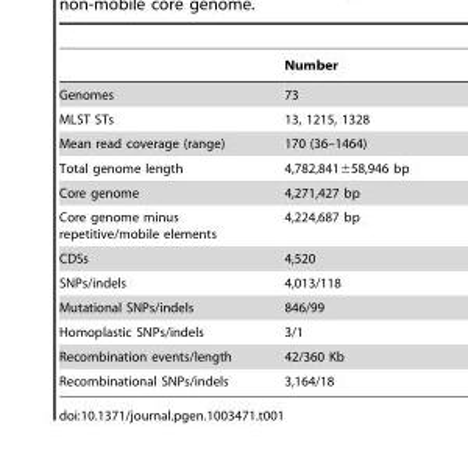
<table><thead><tr><td></td><td>Number</td></tr></thead><tbody><tr><td>Genomes</td><td>73</td></tr><tr><td>MLST STs</td><td>13, 1215, 1328</td></tr><tr><td>Mean read coverage (range)</td><td>170 (36–1464)</td></tr><tr><td>Total genome length</td><td>4,782,841±58,946 bp</td></tr><tr><td>Core genome</td><td>4,271,427 bp</td></tr><tr><td>Core genome minus repetitive/mobile elements</td><td>4,224,687 bp</td></tr><tr><td>CDSs</td><td>4,520</td></tr><tr><td>SNPs/indels</td><td>4,013/118</td></tr><tr><td>Mutational SNPs/indels</td><td>846/99</td></tr><tr><td>Homoplastic SNPs/indels</td><td>3/1</td></tr><tr><td>Recombination events/length</td><td>42/360 Kb</td></tr><tr><td>Recombinational SNPs/indels</td><td>3,164/18</td></tr></tbody></table>